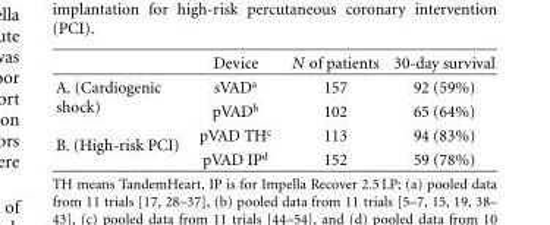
<table><thead><tr><td></td><td>Device</td><td>N of patients</td><td>30-day survival</td></tr></thead><tbody><tr><td rowspan="2">A. (Cardiogenic shock)</td><td>sVAD<sup>a</sup></td><td>157</td><td>92 (59%)</td></tr><tr><td>pVAD<sup>b</sup></td><td>102</td><td>65 (64%)</td></tr><tr><td rowspan="2">B. (High-risk PCI)</td><td>pVAD TH<sup>c</sup></td><td>113</td><td>94 (83%)</td></tr><tr><td>pVAD IP<sup>d</sup></td><td>152</td><td>59 (78%)</td></tr></tbody></table>